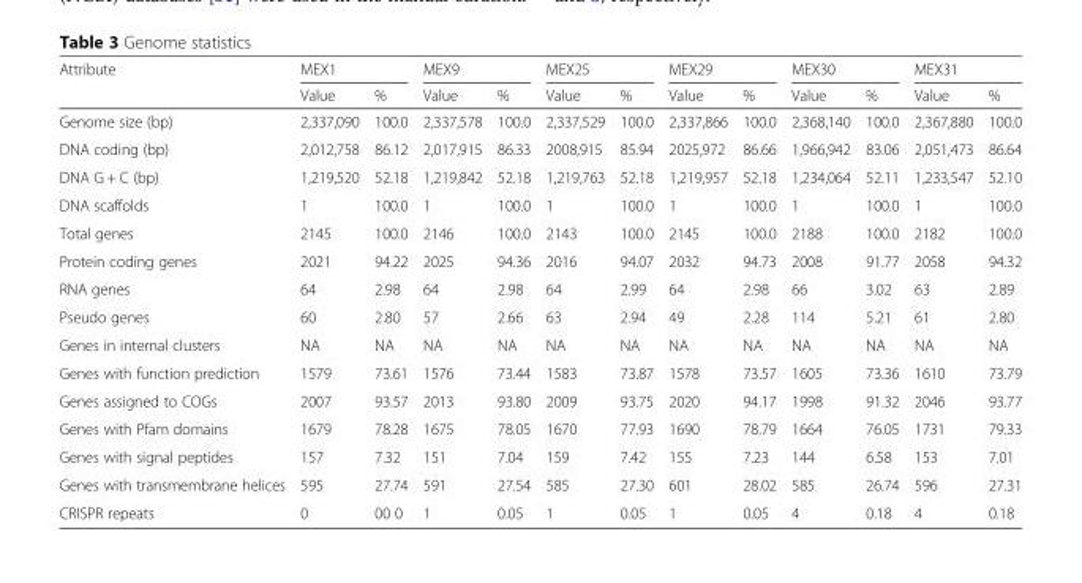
<table><thead><tr><td rowspan="2">Attribute</td><td colspan="2">MEX1</td><td colspan="2">MEX9</td><td colspan="2">MEX25</td><td colspan="2">MEX29</td><td colspan="2">MEX30</td><td colspan="2">MEX31</td></tr><tr><td>Value</td><td>%</td><td>Value</td><td>%</td><td>Value</td><td>%</td><td>Value</td><td>%</td><td>Value</td><td>%</td><td>Value</td><td>%</td></tr></thead><tbody><tr><td>Genome size (bp)</td><td>2,337,090</td><td>100.0</td><td>2,337,578</td><td>100.0</td><td>2,337,529</td><td>100.0</td><td>2,337,866</td><td>100.0</td><td>2,368,140</td><td>100.0</td><td>2,367,880</td><td>100.0</td></tr><tr><td>DNA coding (bp)</td><td>2,012,758</td><td>86.12</td><td>2,017,915</td><td>86.33</td><td>2008,915</td><td>85.94</td><td>2025,972</td><td>86.66</td><td>1,966,942</td><td>83.06</td><td>2,051,473</td><td>86.64</td></tr><tr><td>DNA G + C (bp)</td><td>1,219,520</td><td>52.18</td><td>1,219,842</td><td>52.18</td><td>1,219,763</td><td>52.18</td><td>1,219,957</td><td>52.18</td><td>1,234,064</td><td>52.11</td><td>1,233,547</td><td>52.10</td></tr><tr><td>DNA scaffolds</td><td>1</td><td>100.0</td><td>1</td><td>100.0</td><td>1</td><td>100.0</td><td>1</td><td>100.0</td><td>1</td><td>100.0</td><td>1</td><td>100.0</td></tr><tr><td>Total genes</td><td>2145</td><td>100.0</td><td>2146</td><td>100.0</td><td>2143</td><td>100.0</td><td>2145</td><td>100.0</td><td>2188</td><td>100.0</td><td>2182</td><td>100.0</td></tr><tr><td>Protein coding genes</td><td>2021</td><td>94.22</td><td>2025</td><td>94.36</td><td>2016</td><td>94.07</td><td>2032</td><td>94.73</td><td>2008</td><td>91.77</td><td>2058</td><td>94.32</td></tr><tr><td>RNA genes</td><td>64</td><td>2.98</td><td>64</td><td>2.98</td><td>64</td><td>2.99</td><td>64</td><td>2.98</td><td>66</td><td>3.02</td><td>63</td><td>2.89</td></tr><tr><td>Pseudo genes</td><td>60</td><td>2.80</td><td>57</td><td>2.66</td><td>63</td><td>2.94</td><td>49</td><td>2.28</td><td>114</td><td>5.21</td><td>61</td><td>2.80</td></tr><tr><td>Genes in internal clusters</td><td>NA</td><td>NA</td><td>NA</td><td>NA</td><td>NA</td><td>NA</td><td>NA</td><td>NA</td><td>NA</td><td>NA</td><td>NA</td><td>NA</td></tr><tr><td>Genes with function prediction</td><td>1579</td><td>73.61</td><td>1576</td><td>73.44</td><td>1583</td><td>73.87</td><td>1578</td><td>73.57</td><td>1605</td><td>73.36</td><td>1610</td><td>73.79</td></tr><tr><td>Genes assigned to COGs</td><td>2007</td><td>93.57</td><td>2013</td><td>93.80</td><td>2009</td><td>93.75</td><td>2020</td><td>94.17</td><td>1998</td><td>91.32</td><td>2046</td><td>93.77</td></tr><tr><td>Genes with Pfam domains</td><td>1679</td><td>78.28</td><td>1675</td><td>78.05</td><td>1670</td><td>77.93</td><td>1690</td><td>78.79</td><td>1664</td><td>76.05</td><td>1731</td><td>79.33</td></tr><tr><td>Genes with signal peptides</td><td>157</td><td>7.32</td><td>151</td><td>7.04</td><td>159</td><td>7.42</td><td>155</td><td>7.23</td><td>144</td><td>6.58</td><td>153</td><td>7.01</td></tr><tr><td>Genes with transmembrane helices</td><td>595</td><td>27.74</td><td>591</td><td>27.54</td><td>585</td><td>27.30</td><td>601</td><td>28.02</td><td>585</td><td>26.74</td><td>596</td><td>27.31</td></tr><tr><td>CRISPR repeats</td><td>0</td><td>00 0</td><td>1</td><td>0.05</td><td>1</td><td>0.05</td><td>1</td><td>0.05</td><td>4</td><td>0.18</td><td>4</td><td>0.18</td></tr></tbody></table>